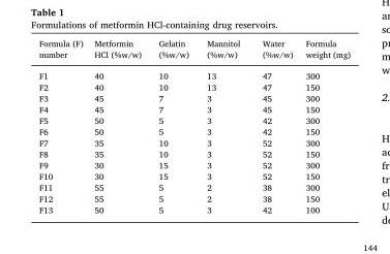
<table><thead><tr><td>Formula (F) number</td><td>Metformin HCl (%w/w)</td><td>Gelatin (%w/w)</td><td>Mannitol (%w/w)</td><td>Water (%w/w)</td><td>Formula weight (mg)</td></tr></thead><tbody><tr><td>F1</td><td>40</td><td>10</td><td>13</td><td>47</td><td>300</td></tr><tr><td>F2</td><td>40</td><td>10</td><td>13</td><td>47</td><td>150</td></tr><tr><td>F3</td><td>45</td><td>7</td><td>3</td><td>45</td><td>300</td></tr><tr><td>F4</td><td>45</td><td>7</td><td>3</td><td>45</td><td>150</td></tr><tr><td>F5</td><td>50</td><td>5</td><td>3</td><td>42</td><td>300</td></tr><tr><td>F6</td><td>50</td><td>5</td><td>3</td><td>42</td><td>150</td></tr><tr><td>F7</td><td>35</td><td>10</td><td>3</td><td>52</td><td>300</td></tr><tr><td>F8</td><td>35</td><td>10</td><td>3</td><td>52</td><td>150</td></tr><tr><td>F9</td><td>30</td><td>15</td><td>3</td><td>52</td><td>300</td></tr><tr><td>F10</td><td>30</td><td>15</td><td>3</td><td>52</td><td>150</td></tr><tr><td>F11</td><td>55</td><td>5</td><td>2</td><td>38</td><td>300</td></tr><tr><td>F12</td><td>55</td><td>5</td><td>2</td><td>38</td><td>150</td></tr><tr><td>F13</td><td>50</td><td>5</td><td>3</td><td>42</td><td>100</td></tr></tbody></table>